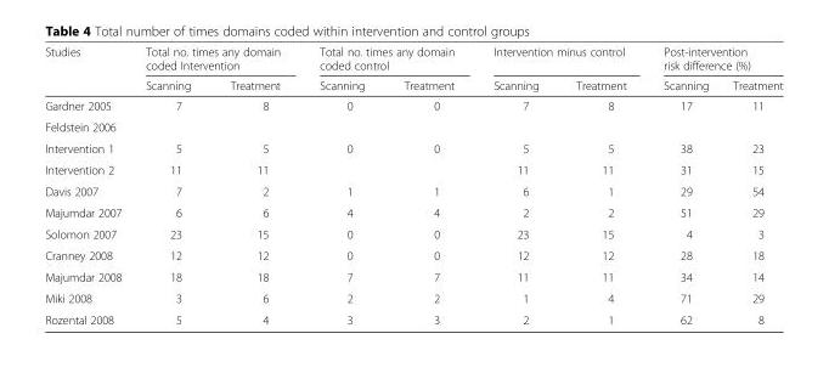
<table><thead><tr><td rowspan="2">Studies</td><td colspan="2">Total no. times any domain coded Intervention</td><td colspan="2">Total no. times any domain coded control</td><td colspan="2">Intervention minus control</td><td colspan="2">Post-intervention risk difference (%)</td></tr><tr><td>Scanning</td><td>Treatment</td><td>Scanning</td><td>Treatment</td><td>Scanning</td><td>Treatment</td><td>Scanning</td><td>Treatment</td></tr></thead><tbody><tr><td>Gardner 2005</td><td>7</td><td>8</td><td>0</td><td>0</td><td>7</td><td>8</td><td>17</td><td>11</td></tr><tr><td colspan="9">Feldstein 2006</td></tr><tr><td>Intervention 1</td><td>5</td><td>5</td><td>0</td><td>0</td><td>5</td><td>5</td><td>38</td><td>23</td></tr><tr><td>Intervention 2</td><td>11</td><td>11</td><td></td><td></td><td>11</td><td>11</td><td>31</td><td>15</td></tr><tr><td>Davis 2007</td><td>7</td><td>2</td><td>1</td><td>1</td><td>6</td><td>1</td><td>29</td><td>54</td></tr><tr><td>Majumdar 2007</td><td>6</td><td>6</td><td>4</td><td>4</td><td>2</td><td>2</td><td>51</td><td>29</td></tr><tr><td>Solomon 2007</td><td>23</td><td>15</td><td>0</td><td>0</td><td>23</td><td>15</td><td>4</td><td>3</td></tr><tr><td>Cranney 2008</td><td>12</td><td>12</td><td>0</td><td>0</td><td>12</td><td>12</td><td>28</td><td>18</td></tr><tr><td>Majumdar 2008</td><td>18</td><td>18</td><td>7</td><td>7</td><td>11</td><td>11</td><td>34</td><td>14</td></tr><tr><td>Miki 2008</td><td>3</td><td>6</td><td>2</td><td>2</td><td>1</td><td>4</td><td>71</td><td>29</td></tr><tr><td>Rozental 2008</td><td>5</td><td>4</td><td>3</td><td>3</td><td>2</td><td>1</td><td>62</td><td>8</td></tr></tbody></table>